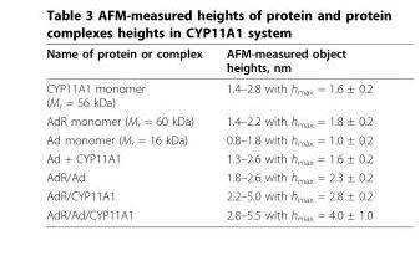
<table><thead><tr><td>Name of protein or complex</td><td>AFM-measured object heights, nm</td></tr></thead><tbody><tr><td>CYP11A1 monomer (M<sub>r</sub> = 56 kDa)</td><td>1.4–2.8 with h<sub>max</sub> = 1.6 ± 0.2</td></tr><tr><td>AdR monomer (M<sub>r</sub> = 60 kDa)</td><td>1.4–2.2 with h<sub>max</sub> = 1.8 ± 0.2</td></tr><tr><td>Ad monomer (M<sub>r</sub> = 16 kDa)</td><td>0.8–1.8 with h<sub>max</sub> = 1.0 ± 0.2</td></tr><tr><td>Ad + CYP11A1</td><td>1.3–2.6 with h<sub>max</sub> = 1.6 ± 0.2</td></tr><tr><td>AdR/Ad</td><td>1.8–2.6 with h<sub>max</sub> = 2.3 ± 0.2</td></tr><tr><td>AdR/CYP11A1</td><td>2.2–5.0 with h<sub>max</sub> = 2.8 ± 0.2</td></tr><tr><td>AdR/Ad/CYP11A1</td><td>2.8–5.5 with h<sub>max</sub> = 4.0 ± 1.0</td></tr></tbody></table>